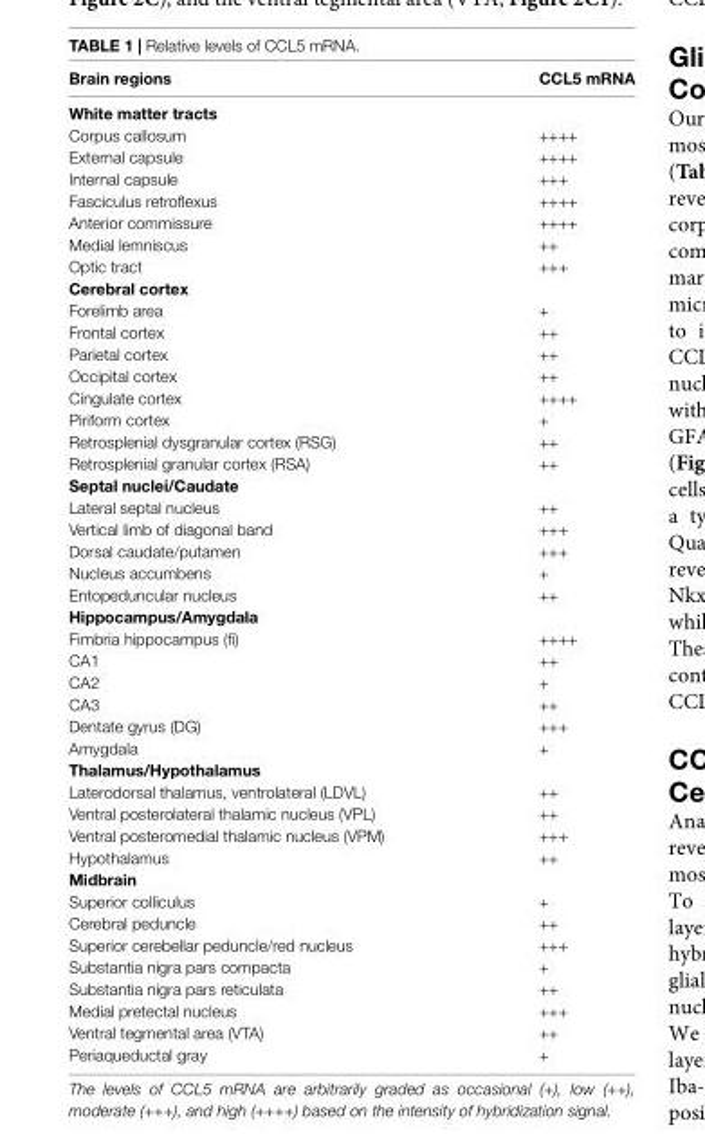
<table><thead><tr><td>Brain regions</td><td>CCL5 mRNA</td></tr></thead><tbody><tr><td colspan="2">White matter tracts</td></tr><tr><td>Corpus callosum</td><td>++++</td></tr><tr><td>External capsule</td><td>++++</td></tr><tr><td>Internal capsule</td><td>+++</td></tr><tr><td>Fasciculus retroflexus</td><td>++++</td></tr><tr><td>Anterior commissure</td><td>++++</td></tr><tr><td>Medial lemniscus</td><td>++</td></tr><tr><td>Optic tract</td><td>+++</td></tr><tr><td colspan="2">Cerebral cortex</td></tr><tr><td>Forelimb area</td><td>+</td></tr><tr><td>Frontal cortex</td><td>++</td></tr><tr><td>Parietal cortex</td><td>++</td></tr><tr><td>Occipital cortex</td><td>++</td></tr><tr><td>Cingulate cortex</td><td>++++</td></tr><tr><td>Piriform cortex</td><td>+</td></tr><tr><td>Retrosplenial dysgranular cortex (RSG)</td><td>++</td></tr><tr><td>Retrosplenial granular cortex (RSA)</td><td>++</td></tr><tr><td colspan="2">Septal nuclei/Caudate</td></tr><tr><td>Lateral septal nucleus</td><td>++</td></tr><tr><td>Vertical limb of diagonal band</td><td>+++</td></tr><tr><td>Dorsal caudate/putamen</td><td>+++</td></tr><tr><td>Nucleus accumbens</td><td>+</td></tr><tr><td>Entopeduncular nucleus</td><td>++</td></tr><tr><td colspan="2">Hippocampus/Amygdala</td></tr><tr><td>Fimbria hippocampus (fi)</td><td>++++</td></tr><tr><td>CA1</td><td>++</td></tr><tr><td>CA2</td><td>+</td></tr><tr><td>CA3</td><td>++</td></tr><tr><td>Dentate gyrus (DG)</td><td>+++</td></tr><tr><td>Amygdala</td><td>+</td></tr><tr><td colspan="2">Thalamus/Hypothalamus</td></tr><tr><td>Laterodorsal thalamus, ventrolateral (LDVL)</td><td>++</td></tr><tr><td>Ventral posterolateral thalamic nucleus (VPL)</td><td>++</td></tr><tr><td>Ventral posteromedial thalamic nucleus (VPM)</td><td>+++</td></tr><tr><td>Hypothalamus</td><td>++</td></tr><tr><td colspan="2">Midbrain</td></tr><tr><td>Superior colliculus</td><td>+</td></tr><tr><td>Cerebral peduncle</td><td>++</td></tr><tr><td>Superior cerebellar peduncle/red nucleus</td><td>+++</td></tr><tr><td>Substantia nigra pars compacta</td><td>+</td></tr><tr><td>Substantia nigra pars reticulata</td><td>++</td></tr><tr><td>Medial pretectal nucleus</td><td>+++</td></tr><tr><td>Ventral tegmental area (VTA)</td><td>++</td></tr><tr><td>Periaqueductal gray</td><td>+</td></tr></tbody></table>